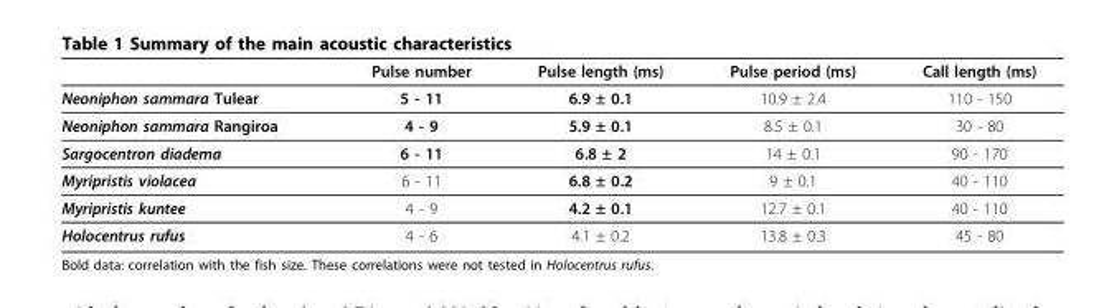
<table><thead><tr><td></td><td>Pulse number</td><td>Pulse length (ms)</td><td>Pulse period (ms)</td><td>Call length (ms)</td></tr></thead><tbody><tr><td>Neoniphon sammara Tulear</td><td>5 - 11</td><td>6.9 ± 0.1</td><td>10.9 ± 2.4</td><td>110 - 150</td></tr><tr><td>Neoniphon sammara Rangiroa</td><td>4 - 9</td><td>5.9 ± 0.1</td><td>8.5 ± 0.1</td><td>30 - 80</td></tr><tr><td>Sargocentron diadema</td><td>6 - 11</td><td>6.8 ± 2</td><td>14 ± 0.1</td><td>90 - 170</td></tr><tr><td>Myripristis violacea</td><td>6 - 11</td><td>6.8 ± 0.2</td><td>9 ± 0.1</td><td>40 - 110</td></tr><tr><td>Myripristis kuntee</td><td>4 - 9</td><td>4.2 ± 0.1</td><td>12.7 ± 0.1</td><td>40 - 110</td></tr><tr><td>Holocentrus rufus</td><td>4 - 6</td><td>4.1 ± 0.2</td><td>13.8 ± 0.3</td><td>45 - 80</td></tr></tbody></table>